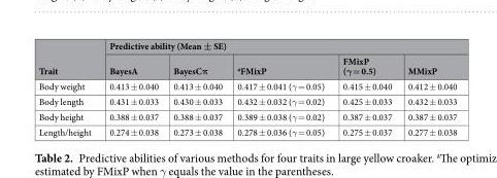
<table><thead><tr><td rowspan="2">Trait</td><td colspan="5">Predictive ability (Mean ± SE)</td></tr><tr><td>BayesA</td><td>BayesCπ</td><td><sup>a</sup>FMixP</td><td>FMixP (γ = 0.5)</td><td>MMixP</td></tr></thead><tbody><tr><td>Body weight</td><td>0.413 ± 0.040</td><td>0.413 ± 0.040</td><td>0.417 ± 0.041 (γ = 0.05)</td><td>0.415 ± 0.040</td><td>0.412 ± 0.040</td></tr><tr><td>Body length</td><td>0.431 ± 0.033</td><td>0.430 ± 0.033</td><td>0.432 ± 0.032 (γ = 0.02)</td><td>0.425 ± 0.033</td><td>0.432 ± 0.033</td></tr><tr><td>Body height</td><td>0.388 ± 0.037</td><td>0.388 ± 0.037</td><td>0.389 ± 0.038 (γ = 0.02)</td><td>0.387 ± 0.037</td><td>0.387 ± 0.037</td></tr><tr><td>Length/height</td><td>0.274 ± 0.038</td><td>0.273 ± 0.038</td><td>0.278 ± 0.036 (γ = 0.05)</td><td>0.275 ± 0.037</td><td>0.277 ± 0.038</td></tr></tbody></table>